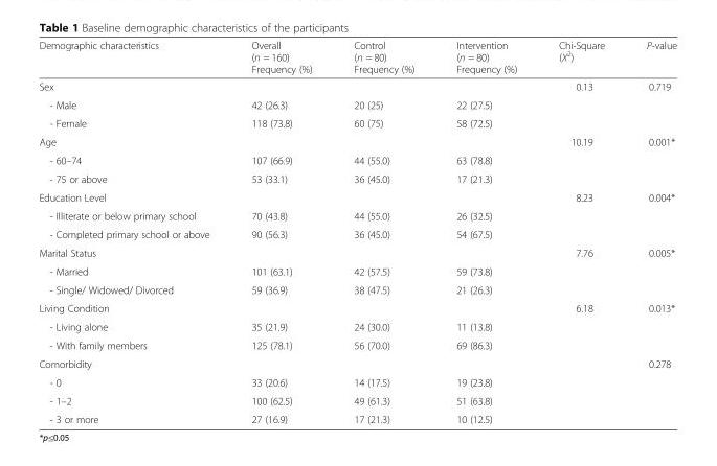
<table><thead><tr><td>Demographic characteristics</td><td>Overall (n = 160) Frequency (%)</td><td>Control (n = 80) Frequency (%)</td><td>Intervention (n = 80) Frequency (%)</td><td>Chi-Square (X<sup>2</sup>)</td><td>P-value</td></tr></thead><tbody><tr><td>Sex</td><td></td><td></td><td></td><td>0.13</td><td>0.719</td></tr><tr><td>- Male</td><td>42 (26.3)</td><td>20 (25)</td><td>22 (27.5)</td><td></td><td></td></tr><tr><td>- Female</td><td>118 (73.8)</td><td>60 (75)</td><td>58 (72.5)</td><td></td><td></td></tr><tr><td>Age</td><td></td><td></td><td></td><td>10.19</td><td>0.001*</td></tr><tr><td>- 60–74</td><td>107 (66.9)</td><td>44 (55.0)</td><td>63 (78.8)</td><td></td><td></td></tr><tr><td>- 75 or above</td><td>53 (33.1)</td><td>36 (45.0)</td><td>17 (21.3)</td><td></td><td></td></tr><tr><td>Education Level</td><td></td><td></td><td></td><td>8.23</td><td>0.004*</td></tr><tr><td>- Illiterate or below primary school</td><td>70 (43.8)</td><td>44 (55.0)</td><td>26 (32.5)</td><td></td><td></td></tr><tr><td>- Completed primary school or above</td><td>90 (56.3)</td><td>36 (45.0)</td><td>54 (67.5)</td><td></td><td></td></tr><tr><td>Marital Status</td><td></td><td></td><td></td><td>7.76</td><td>0.005*</td></tr><tr><td>- Married</td><td>101 (63.1)</td><td>42 (57.5)</td><td>59 (73.8)</td><td></td><td></td></tr><tr><td>- Single/ Widowed/ Divorced</td><td>59 (36.9)</td><td>38 (47.5)</td><td>21 (26.3)</td><td></td><td></td></tr><tr><td>Living Condition</td><td></td><td></td><td></td><td>6.18</td><td>0.013*</td></tr><tr><td>- Living alone</td><td>35 (21.9)</td><td>24 (30.0)</td><td>11 (13.8)</td><td></td><td></td></tr><tr><td>- With family members</td><td>125 (78.1)</td><td>56 (70.0)</td><td>69 (86.3)</td><td></td><td></td></tr><tr><td>Comorbidity</td><td></td><td></td><td></td><td></td><td>0.278</td></tr><tr><td>- 0</td><td>33 (20.6)</td><td>14 (17.5)</td><td>19 (23.8)</td><td></td><td></td></tr><tr><td>- 1–2</td><td>100 (62.5)</td><td>49 (61.3)</td><td>51 (63.8)</td><td></td><td></td></tr><tr><td>- 3 or more</td><td>27 (16.9)</td><td>17 (21.3)</td><td>10 (12.5)</td><td></td><td></td></tr></tbody></table>